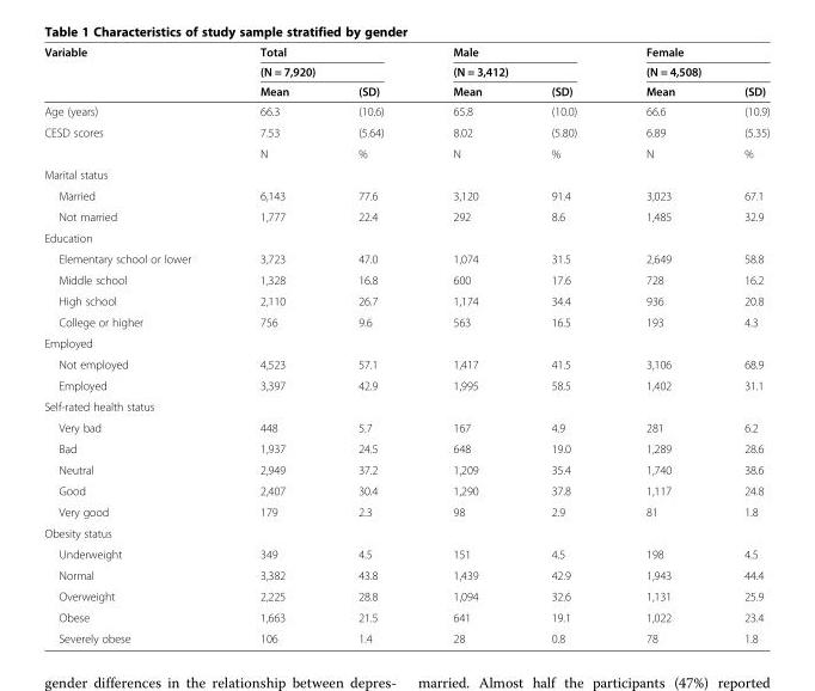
<table><thead><tr><td rowspan="3">Variable</td><td rowspan="2" colspan="2">Total (N = 7,920)</td><td rowspan="2" colspan="2">Male (N = 3,412)</td><td rowspan="2" colspan="2">Female (N = 4,508)</td></tr><tr></tr><tr><td>Mean</td><td>(SD)</td><td>Mean</td><td>(SD)</td><td>Mean</td><td>(SD)</td></tr></thead><tbody><tr><td>Age (years)</td><td>66.3</td><td>(10.6)</td><td>65.8</td><td>(10.0)</td><td>66.6</td><td>(10.9)</td></tr><tr><td rowspan="2">CESD scores</td><td>7.53</td><td>(5.64)</td><td>8.02</td><td>(5.80)</td><td>6.89</td><td>(5.35)</td></tr><tr><td>N</td><td>%</td><td>N</td><td>%</td><td>N</td><td>%</td></tr><tr><td colspan="7">Marital status</td></tr><tr><td>Married</td><td>6,143</td><td>77.6</td><td>3,120</td><td>91.4</td><td>3,023</td><td>67.1</td></tr><tr><td>Not married</td><td>1,777</td><td>22.4</td><td>292</td><td>8.6</td><td>1,485</td><td>32.9</td></tr><tr><td colspan="7">Education</td></tr><tr><td>Elementary school or lower</td><td>3,723</td><td>47.0</td><td>1,074</td><td>31.5</td><td>2,649</td><td>58.8</td></tr><tr><td>Middle school</td><td>1,328</td><td>16.8</td><td>600</td><td>17.6</td><td>728</td><td>16.2</td></tr><tr><td>High school</td><td>2,110</td><td>26.7</td><td>1,174</td><td>34.4</td><td>936</td><td>20.8</td></tr><tr><td>College or higher</td><td>756</td><td>9.6</td><td>563</td><td>16.5</td><td>193</td><td>4.3</td></tr><tr><td colspan="7">Employed</td></tr><tr><td>Not employed</td><td>4,523</td><td>57.1</td><td>1,417</td><td>41.5</td><td>3,106</td><td>68.9</td></tr><tr><td>Employed</td><td>3,397</td><td>42.9</td><td>1,995</td><td>58.5</td><td>1,402</td><td>31.1</td></tr><tr><td colspan="7">Self-rated health status</td></tr><tr><td>Very bad</td><td>448</td><td>5.7</td><td>167</td><td>4.9</td><td>281</td><td>6.2</td></tr><tr><td>Bad</td><td>1,937</td><td>24.5</td><td>648</td><td>19.0</td><td>1,289</td><td>28.6</td></tr><tr><td>Neutral</td><td>2,949</td><td>37.2</td><td>1,209</td><td>35.4</td><td>1,740</td><td>38.6</td></tr><tr><td>Good</td><td>2,407</td><td>30.4</td><td>1,290</td><td>37.8</td><td>1,117</td><td>24.8</td></tr><tr><td>Very good</td><td>179</td><td>2.3</td><td>98</td><td>2.9</td><td>81</td><td>1.8</td></tr><tr><td colspan="7">Obesity status</td></tr><tr><td>Underweight</td><td>349</td><td>4.5</td><td>151</td><td>4.5</td><td>198</td><td>4.5</td></tr><tr><td>Normal</td><td>3,382</td><td>43.8</td><td>1,439</td><td>42.9</td><td>1,943</td><td>44.4</td></tr><tr><td>Overweight</td><td>2,225</td><td>28.8</td><td>1,094</td><td>32.6</td><td>1,131</td><td>25.9</td></tr><tr><td>Obese</td><td>1,663</td><td>21.5</td><td>641</td><td>19.1</td><td>1,022</td><td>23.4</td></tr><tr><td>Severely obese</td><td>106</td><td>1.4</td><td>28</td><td>0.8</td><td>78</td><td>1.8</td></tr></tbody></table>